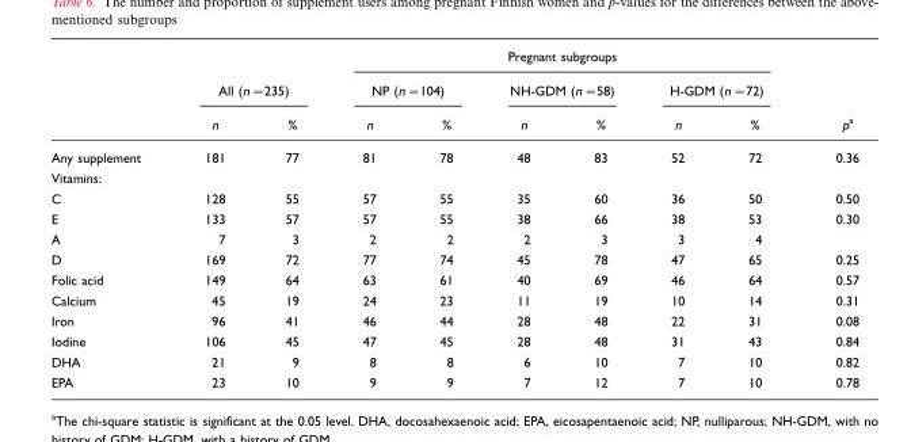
<table><thead><tr><td rowspan="3"></td><td></td><td></td><td colspan="6">Pregnant subgroups</td><td rowspan="3">pa</td></tr><tr><td colspan="2">All (n=235)</td><td colspan="2">NP (n=104)</td><td colspan="2">NH-GDM (n=58)</td><td colspan="2">H-GDM (n=72)</td></tr><tr><td>n</td><td>%</td><td>n</td><td>%</td><td>n</td><td>%</td><td>n</td><td>%</td></tr></thead><tbody><tr><td>Any supplement</td><td>181</td><td>77</td><td>81</td><td>78</td><td>48</td><td>83</td><td>52</td><td>72</td><td>0.36</td></tr><tr><td colspan="10">Vitamins:</td></tr><tr><td>C</td><td>128</td><td>55</td><td>57</td><td>55</td><td>35</td><td>60</td><td>36</td><td>50</td><td>0.50</td></tr><tr><td>E</td><td>133</td><td>57</td><td>57</td><td>55</td><td>38</td><td>66</td><td>38</td><td>53</td><td>0.30</td></tr><tr><td>A</td><td>7</td><td>3</td><td>2</td><td>2</td><td>2</td><td>3</td><td>3</td><td>4</td><td></td></tr><tr><td>D</td><td>169</td><td>72</td><td>77</td><td>74</td><td>45</td><td>78</td><td>47</td><td>65</td><td>0.25</td></tr><tr><td>Folic acid</td><td>149</td><td>64</td><td>63</td><td>61</td><td>40</td><td>69</td><td>46</td><td>64</td><td>0.57</td></tr><tr><td>Calcium</td><td>45</td><td>19</td><td>24</td><td>23</td><td>11</td><td>19</td><td>10</td><td>14</td><td>0.31</td></tr><tr><td>Iron</td><td>96</td><td>41</td><td>46</td><td>44</td><td>28</td><td>48</td><td>22</td><td>31</td><td>0.08</td></tr><tr><td>Iodine</td><td>106</td><td>45</td><td>47</td><td>45</td><td>28</td><td>48</td><td>31</td><td>43</td><td>0.84</td></tr><tr><td>DHA</td><td>21</td><td>9</td><td>8</td><td>8</td><td>6</td><td>10</td><td>7</td><td>10</td><td>0.82</td></tr><tr><td>EPA</td><td>23</td><td>10</td><td>9</td><td>9</td><td>7</td><td>12</td><td>7</td><td>10</td><td>0.78</td></tr></tbody></table>